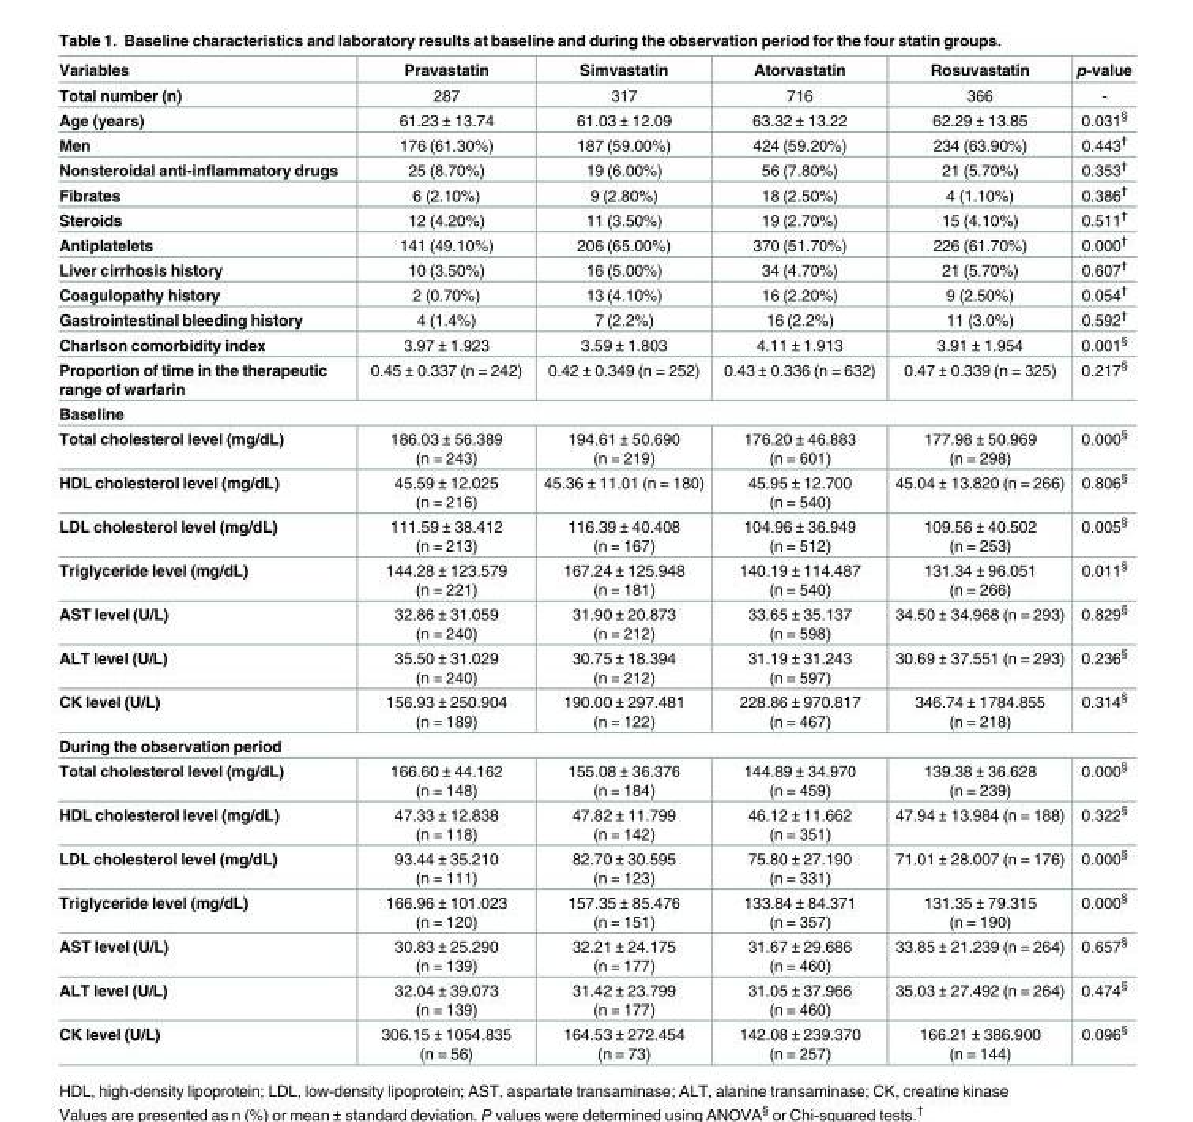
<table><thead><tr><td>Variables</td><td>Pravastatin</td><td>Simvastatin</td><td>Atorvastatin</td><td>Rosuvastatin</td><td>p-value</td></tr></thead><tbody><tr><td>Total number (n)</td><td>287</td><td>317</td><td>716</td><td>366</td><td>-</td></tr><tr><td>Age (years)</td><td>61.23 ± 13.74</td><td>61.03 ± 12.09</td><td>63.32 ± 13.22</td><td>62.29 ± 13.85</td><td>0.031<sup>§</sup></td></tr><tr><td>Men</td><td>176 (61.30%)</td><td>187 (59.00%)</td><td>424 (59.20%)</td><td>234 (63.90%)</td><td>0.443<sup>†</sup></td></tr><tr><td>Nonsteroidal anti-inflammatory drugs</td><td>25 (8.70%)</td><td>19 (6.00%)</td><td>56 (7.80%)</td><td>21 (5.70%)</td><td>0.353<sup>†</sup></td></tr><tr><td>Fibrates</td><td>6 (2.10%)</td><td>9 (2.80%)</td><td>18 (2.50%)</td><td>4 (1.10%)</td><td>0.386<sup>†</sup></td></tr><tr><td>Steroids</td><td>12 (4.20%)</td><td>11 (3.50%)</td><td>19 (2.70%)</td><td>15 (4.10%)</td><td>0.511<sup>†</sup></td></tr><tr><td>Antiplatelets</td><td>141 (49.10%)</td><td>206 (65.00%)</td><td>370 (51.70%)</td><td>226 (61.70%)</td><td>0.000<sup>†</sup></td></tr><tr><td>Liver cirrhosis history</td><td>10 (3.50%)</td><td>16 (5.00%)</td><td>34 (4.70%)</td><td>21 (5.70%)</td><td>0.607<sup>†</sup></td></tr><tr><td>Coagulopathy history</td><td>2 (0.70%)</td><td>13 (4.10%)</td><td>16 (2.20%)</td><td>9 (2.50%)</td><td>0.054<sup>†</sup></td></tr><tr><td>Gastrointestinal bleeding history</td><td>4 (1.4%)</td><td>7 (2.2%)</td><td>16 (2.2%)</td><td>11 (3.0%)</td><td>0.592<sup>†</sup></td></tr><tr><td>Charlson comorbidity index</td><td>3.97 ± 1.923</td><td>3.59 ± 1.803</td><td>4.11 ± 1.913</td><td>3.91 ± 1.954</td><td>0.001<sup>§</sup></td></tr><tr><td>Proportion of time in the therapeutic range of warfarin</td><td>0.45 ± 0.337 (n = 242)</td><td>0.42 ± 0.349 (n = 252)</td><td>0.43 ± 0.336 (n = 632)</td><td>0.47 ± 0.339 (n = 325)</td><td>0.217<sup>§</sup></td></tr><tr><td colspan="6">Baseline</td></tr><tr><td>Total cholesterol level (mg/dL)</td><td>186.03 ± 56.389 (n = 243)</td><td>194.61 ± 50.690 (n = 219)</td><td>176.20 ± 46.883 (n = 601)</td><td>177.98 ± 50.969 (n = 298)</td><td>0.000<sup>§</sup></td></tr><tr><td>HDL cholesterol level (mg/dL)</td><td>45.59 ± 12.025 (n = 216)</td><td>45.36 ± 11.01 (n = 180)</td><td>45.95 ± 12.700 (n = 540)</td><td>45.04 ± 13.820 (n = 266)</td><td>0.806<sup>§</sup></td></tr><tr><td>LDL cholesterol level (mg/dL)</td><td>111.59 ± 38.412 (n = 213)</td><td>116.39 ± 40.408 (n = 167)</td><td>104.96 ± 36.949 (n = 512)</td><td>109.56 ± 40.502 (n = 253)</td><td>0.005<sup>§</sup></td></tr><tr><td>Triglyceride level (mg/dL)</td><td>144.28 ± 123.579 (n = 221)</td><td>167.24 ± 125.948 (n = 181)</td><td>140.19 ± 114.487 (n = 540)</td><td>131.34 ± 96.051 (n = 266)</td><td>0.011<sup>§</sup></td></tr><tr><td>AST level (U/L)</td><td>32.86 ± 31.059 (n = 240)</td><td>31.90 ± 20.873 (n = 212)</td><td>33.65 ± 35.137 (n = 598)</td><td>34.50 ± 34.968 (n = 293)</td><td>0.829<sup>§</sup></td></tr><tr><td>ALT level (U/L)</td><td>35.50 ± 31.029 (n = 240)</td><td>30.75 ± 18.394 (n = 212)</td><td>31.19 ± 31.243 (n = 597)</td><td>30.69 ± 37.551 (n = 293)</td><td>0.236<sup>§</sup></td></tr><tr><td>CK level (U/L)</td><td>156.93 ± 250.904 (n = 189)</td><td>190.00 ± 297.481 (n = 122)</td><td>228.86 ± 970.817 (n = 467)</td><td>346.74 ± 1784.855 (n = 218)</td><td>0.314<sup>§</sup></td></tr><tr><td colspan="6">During the observation period</td></tr><tr><td>Total cholesterol level (mg/dL)</td><td>166.60 ± 44.162 (n = 148)</td><td>155.08 ± 36.376 (n = 184)</td><td>144.89 ± 34.970 (n = 459)</td><td>139.38 ± 36.628 (n = 239)</td><td>0.000<sup>§</sup></td></tr><tr><td>HDL cholesterol level (mg/dL)</td><td>47.33 ± 12.838 (n = 118)</td><td>47.82 ± 11.799 (n = 142)</td><td>46.12 ± 11.662 (n = 351)</td><td>47.94 ± 13.984 (n = 188)</td><td>0.322<sup>§</sup></td></tr><tr><td>LDL cholesterol level (mg/dL)</td><td>93.44 ± 35.210 (n = 111)</td><td>82.70 ± 30.595 (n = 123)</td><td>75.80 ± 27.190 (n = 331)</td><td>71.01 ± 28.007 (n = 176)</td><td>0.000<sup>§</sup></td></tr><tr><td>Triglyceride level (mg/dL)</td><td>166.96 ± 101.023 (n = 120)</td><td>157.35 ± 85.476 (n = 151)</td><td>133.84 ± 84.371 (n = 357)</td><td>131.35 ± 79.315 (n = 190)</td><td>0.000<sup>§</sup></td></tr><tr><td>AST level (U/L)</td><td>30.83 ± 25.290 (n = 139)</td><td>32.21 ± 24.175 (n = 177)</td><td>31.67 ± 29.686 (n = 460)</td><td>33.85 ± 21.239 (n = 264)</td><td>0.657<sup>§</sup></td></tr><tr><td>ALT level (U/L)</td><td>32.04 ± 39.073 (n = 139)</td><td>31.42 ± 23.799 (n = 177)</td><td>31.05 ± 37.966 (n = 460)</td><td>35.03 ± 27.492 (n = 264)</td><td>0.474<sup>§</sup></td></tr><tr><td>CK level (U/L)</td><td>306.15 ± 1054.835 (n = 56)</td><td>164.53 ± 272.454 (n = 73)</td><td>142.08 ± 239.370 (n = 257)</td><td>166.21 ± 386.900 (n = 144)</td><td>0.096<sup>§</sup></td></tr></tbody></table>